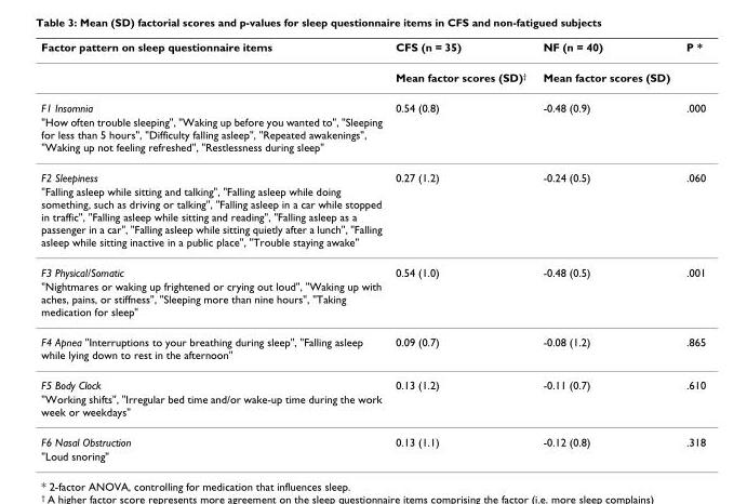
<table><thead><tr><td>Factor pattern on sleep questionnaire items</td><td>CFS (n = 35)</td><td>NF (n = 40)</td><td>P *</td></tr></thead><tbody><tr><td></td><td>Mean factor scores (SD)<sup>†</sup></td><td>Mean factor scores (SD)</td><td></td></tr><tr><td>F1 Insomnia</td><td>0.54 (0.8)</td><td>-0.48 (0.9)</td><td>.000</td></tr><tr><td colspan="4">&quot;How often trouble sleeping&quot;, &quot;Waking up before you wanted to&quot;, &quot;Sleeping for less than 5 hours&quot;, &quot;Difficulty falling asleep&quot;, &quot;Repeated awakenings&quot;, &quot;Waking up not feeling refreshed&quot;, &quot;Restlessness during sleep&quot;</td></tr><tr><td>F2 Sleepiness</td><td>0.27 (1.2)</td><td>-0.24 (0.5)</td><td>.060</td></tr><tr><td colspan="4">&quot;Falling asleep while sitting and talking&quot;, &quot;Falling asleep while doing something, such as driving or talking&quot;, &quot;Falling asleep in a car while stopped in traffic&quot;, &quot;Falling asleep while sitting and reading&quot;, &quot;Falling asleep as a passenger in a car&quot;, &quot;Falling asleep while sitting quietly after a lunch&quot;, &quot;Falling asleep while sitting inactive in a public place&quot;, &quot;Trouble staying awake&quot;</td></tr><tr><td>F3 Physical/Somatic</td><td>0.54 (1.0)</td><td>-0.48 (0.5)</td><td>.001</td></tr><tr><td colspan="4">&quot;Nightmares or waking up frightened or crying out loud&quot;, &quot;Waking up with aches, pains, or stiffness&quot;, &quot;Sleeping more than nine hours&quot;, &quot;Taking medication for sleep&quot;</td></tr><tr><td>F4 Apnea &quot;Interruptions to your breathing during sleep&quot;, &quot;Falling asleep while lying down to rest in the afternoon&quot;</td><td>0.09 (0.7)</td><td>-0.08 (1.2)</td><td>.865</td></tr><tr><td>F5 Body Clock</td><td>0.13 (1.2)</td><td>-0.11 (0.7)</td><td>.610</td></tr><tr><td colspan="4">&quot;Working shifts&quot;, &quot;Irregular bed time and/or wake-up time during the work week or weekdays&quot;</td></tr><tr><td>F6 Nasal Obstruction</td><td>0.13 (1.1)</td><td>-0.12 (0.8)</td><td>.318</td></tr><tr><td>&quot;Loud snoring&quot;</td><td></td><td></td><td></td></tr></tbody></table>